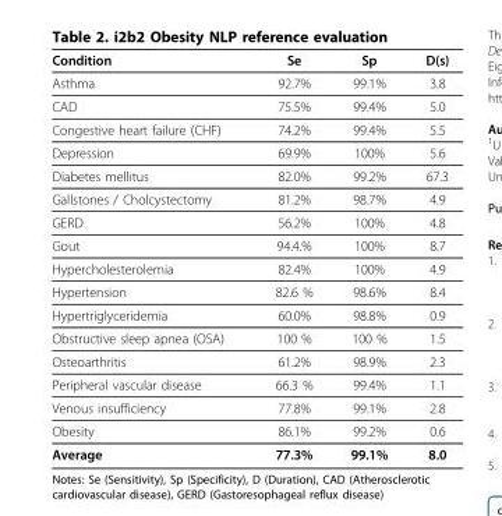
<table><thead><tr><td>Condition</td><td>Se</td><td>Sp</td><td>D(s)</td></tr></thead><tbody><tr><td>Asthma</td><td>92.7%</td><td>99.1%</td><td>3.8</td></tr><tr><td>CAD</td><td>75.5%</td><td>99.4%</td><td>5.0</td></tr><tr><td>Congestive heart failure (CHF)</td><td>74.2%</td><td>99.4%</td><td>5.5</td></tr><tr><td>Depression</td><td>69.9%</td><td>100%</td><td>5.6</td></tr><tr><td>Diabetes mellitus</td><td>82.0%</td><td>99.2%</td><td>67.3</td></tr><tr><td>Gallstones / Cholcystectomy</td><td>81.2%</td><td>98.7%</td><td>4.9</td></tr><tr><td>GERD</td><td>56.2%</td><td>100%</td><td>4.8</td></tr><tr><td>Gout</td><td>94.4.%</td><td>100%</td><td>8.7</td></tr><tr><td>Hypercholesterolemia</td><td>82.4%</td><td>100%</td><td>4.9</td></tr><tr><td>Hypertension</td><td>82.6 %</td><td>98.6%</td><td>8.4</td></tr><tr><td>Hypertriglyceridemia</td><td>60.0%</td><td>98.8%</td><td>0.9</td></tr><tr><td>Obstructive sleep apnea (OSA)</td><td>100 %</td><td>100 %</td><td>1.5</td></tr><tr><td>Osteoarthritis</td><td>61.2%</td><td>98.9%</td><td>2.3</td></tr><tr><td>Peripheral vascular disease</td><td>66.3 %</td><td>99.4%</td><td>1.1</td></tr><tr><td>Venous insufficiency</td><td>77.8%</td><td>99.1%</td><td>2.8</td></tr><tr><td>Obesity</td><td>86.1%</td><td>99.2%</td><td>0.6</td></tr><tr><td>Average</td><td>77.3%</td><td>99.1%</td><td>8.0</td></tr></tbody></table>